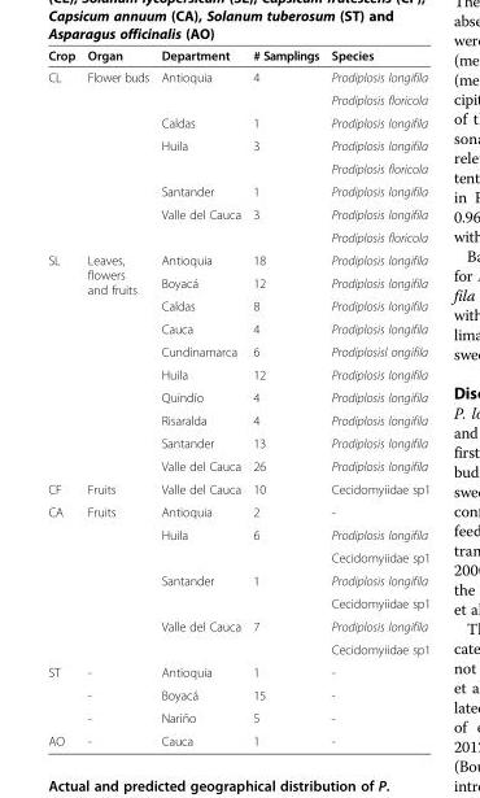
<table><thead><tr><td>Crop</td><td>Organ</td><td>Department</td><td># Samplings</td><td>Species</td></tr></thead><tbody><tr><td rowspan="8">CL</td><td rowspan="8">Flower buds</td><td rowspan="2">Antioquia</td><td rowspan="2">4</td><td>Prodiplosis longifila</td></tr><tr><td>Prodiplosis floricola</td></tr><tr><td>Caldas</td><td>1</td><td>Prodiplosis longifila</td></tr><tr><td rowspan="2">Huila</td><td rowspan="2">3</td><td>Prodiplosis longifila</td></tr><tr><td>Prodiplosis floricola</td></tr><tr><td>Santander</td><td>1</td><td>Prodiplosis longifila</td></tr><tr><td rowspan="2">Valle del Cauca</td><td rowspan="2">3</td><td>Prodiplosis longifila</td></tr><tr><td>Prodiplosis floricola</td></tr><tr><td rowspan="10">SL</td><td rowspan="10">Leaves, flowers and fruits</td><td>Antioquia</td><td>18</td><td>Prodiplosis longifila</td></tr><tr><td>Boyacá</td><td>12</td><td>Prodiplosis longifila</td></tr><tr><td>Caldas</td><td>8</td><td>Prodiplosis longifila</td></tr><tr><td>Cauca</td><td>4</td><td>Prodiplosis longifila</td></tr><tr><td>Cundinamarca</td><td>6</td><td>Prodiplosisl ongifila</td></tr><tr><td>Huila</td><td>12</td><td>Prodiplosis longifila</td></tr><tr><td>Quindío</td><td>4</td><td>Prodiplosis longifila</td></tr><tr><td>Risaralda</td><td>4</td><td>Prodiplosis longifila</td></tr><tr><td>Santander</td><td>13</td><td>Prodiplosis longifila</td></tr><tr><td>Valle del Cauca</td><td>26</td><td>Prodiplosis longifila</td></tr><tr><td>CF</td><td>Fruits</td><td>Valle del Cauca</td><td>10</td><td>Cecidomyiidae sp1</td></tr><tr><td rowspan="7">CA</td><td rowspan="7">Fruits</td><td>Antioquia</td><td>2</td><td>-</td></tr><tr><td rowspan="2">Huila</td><td rowspan="2">6</td><td>Prodiplosis longifila</td></tr><tr><td>Cecidomyiidae sp1</td></tr><tr><td rowspan="2">Santander</td><td rowspan="2">1</td><td>Prodiplosis longifila</td></tr><tr><td>Cecidomyiidae sp1</td></tr><tr><td rowspan="2">Valle del Cauca</td><td rowspan="2">7</td><td>Prodiplosis longifila</td></tr><tr><td>Cecidomyiidae sp1</td></tr><tr><td rowspan="3">ST</td><td>-</td><td>Antioquia</td><td>1</td><td>-</td></tr><tr><td>-</td><td>Boyacá</td><td>15</td><td>-</td></tr><tr><td>-</td><td>Nariño</td><td>5</td><td>-</td></tr><tr><td>AO</td><td>-</td><td>Cauca</td><td>1</td><td>-</td></tr></tbody></table>